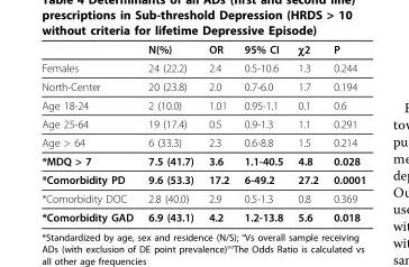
<table><thead><tr><td></td><td>N(%)</td><td>OR</td><td>95% CI</td><td>χ2</td><td>P</td></tr></thead><tbody><tr><td>Females</td><td>24 (22.2)</td><td>2.4</td><td>0.5-10.6</td><td>1.3</td><td>0.244</td></tr><tr><td>North-Center</td><td>20 (23.8)</td><td>2.0</td><td>0.7-6.0</td><td>1.7</td><td>0.194</td></tr><tr><td>Age 18-24</td><td>2 (10.0)</td><td>1.01</td><td>0.95-1.1</td><td>0.1</td><td>0.6</td></tr><tr><td>Age 25-64</td><td>19 (17.4)</td><td>0.5</td><td>0.9-1.3</td><td>1.1</td><td>0.291</td></tr><tr><td>Age &gt; 64</td><td>6 (33.3)</td><td>2.3</td><td>0.6-8.8</td><td>1.5</td><td>0.214</td></tr><tr><td>*MDQ &gt; 7</td><td>7.5 (41.7)</td><td>3.6</td><td>1.1-40.5</td><td>4.8</td><td>0.028</td></tr><tr><td>*Comorbidity PD</td><td>9.6 (53.3)</td><td>17.2</td><td>6-49.2</td><td>27.2</td><td>0.0001</td></tr><tr><td>*Comorbidity DOC</td><td>2.8 (40.0)</td><td>2.9</td><td>0.5-1.3</td><td>0.8</td><td>0.369</td></tr><tr><td>*Comorbidity GAD</td><td>6.9 (43.1)</td><td>4.2</td><td>1.2-13.8</td><td>5.6</td><td>0.018</td></tr></tbody></table>